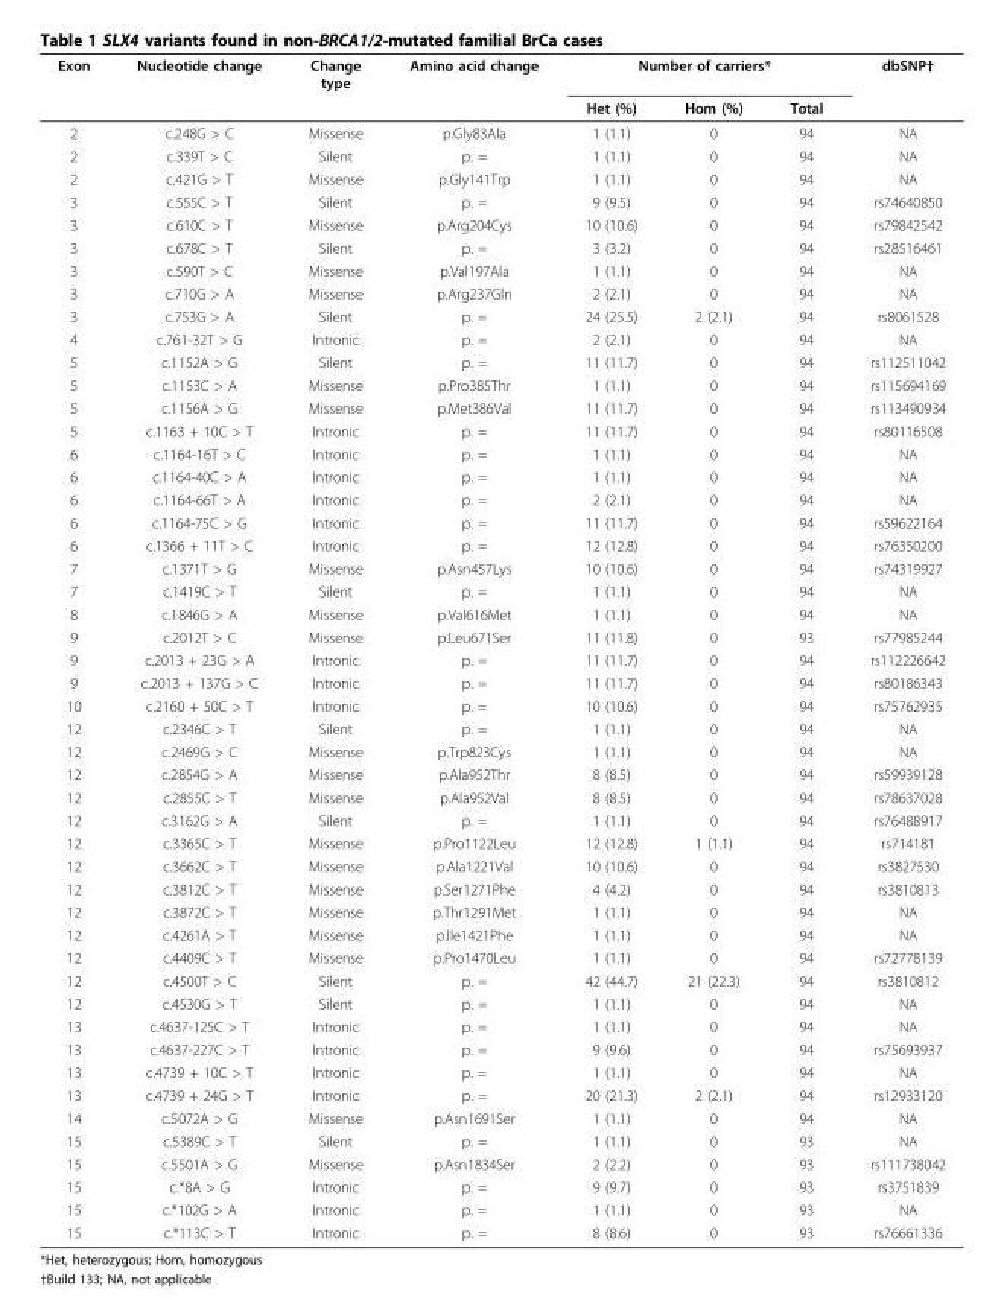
<table><thead><tr><td rowspan="2">Exon</td><td rowspan="2">Nucleotide change</td><td rowspan="2">Change type</td><td rowspan="2">Amino acid change</td><td colspan="3">Number of carriers*</td><td rowspan="2">dbSNP†</td></tr><tr><td>Het (%)</td><td>Hom (%)</td><td>Total</td></tr></thead><tbody><tr><td>2</td><td>c.248G &gt; C</td><td>Missense</td><td>p.Gly83Ala</td><td>1 (1.1)</td><td>0</td><td>94</td><td>NA</td></tr><tr><td>2</td><td>c.339T &gt; C</td><td>Silent</td><td>p. =</td><td>1 (1.1)</td><td>0</td><td>94</td><td>NA</td></tr><tr><td>2</td><td>c.421G &gt; T</td><td>Missense</td><td>p.Gly141Trp</td><td>1 (1.1)</td><td>0</td><td>94</td><td>NA</td></tr><tr><td>3</td><td>c.555C &gt; T</td><td>Silent</td><td>p. =</td><td>9 (9.5)</td><td>0</td><td>94</td><td>rs74640850</td></tr><tr><td>3</td><td>c.610C &gt; T</td><td>Missense</td><td>p.Arg204Cys</td><td>10 (10.6)</td><td>0</td><td>94</td><td>rs79842542</td></tr><tr><td>3</td><td>c.678C &gt; T</td><td>Silent</td><td>p. =</td><td>3 (3.2)</td><td>0</td><td>94</td><td>rs28516461</td></tr><tr><td>3</td><td>c.590T &gt; C</td><td>Missense</td><td>p.Val197Ala</td><td>1 (1.1)</td><td>0</td><td>94</td><td>NA</td></tr><tr><td>3</td><td>c.710G &gt; A</td><td>Missense</td><td>p.Arg237Gln</td><td>2 (2.1)</td><td>0</td><td>94</td><td>NA</td></tr><tr><td>3</td><td>c.753G &gt; A</td><td>Silent</td><td>p. =</td><td>24 (25.5)</td><td>2 (2.1)</td><td>94</td><td>rs8061528</td></tr><tr><td>4</td><td>c.761-32T &gt; G</td><td>Intronic</td><td>p. =</td><td>2 (2.1)</td><td>0</td><td>94</td><td>NA</td></tr><tr><td>5</td><td>c.1152A &gt; G</td><td>Silent</td><td>p. =</td><td>11 (11.7)</td><td>0</td><td>94</td><td>rs112511042</td></tr><tr><td>5</td><td>c.1153C &gt; A</td><td>Missense</td><td>p.Pro385Thr</td><td>1 (1.1)</td><td>0</td><td>94</td><td>rs115694169</td></tr><tr><td>5</td><td>c.1156A &gt; G</td><td>Missense</td><td>p.Met386Val</td><td>11 (11.7)</td><td>0</td><td>94</td><td>rs113490934</td></tr><tr><td>5</td><td>c.1163 + 10C &gt; T</td><td>Intronic</td><td>p. =</td><td>11 (11.7)</td><td>0</td><td>94</td><td>rs80116508</td></tr><tr><td>6</td><td>c.1164-16T &gt; C</td><td>Intronic</td><td>p. =</td><td>1 (1.1)</td><td>0</td><td>94</td><td>NA</td></tr><tr><td>6</td><td>c.1164-40C &gt; A</td><td>Intronic</td><td>p. =</td><td>1 (1.1)</td><td>0</td><td>94</td><td>NA</td></tr><tr><td>6</td><td>c.1164-66T &gt; A</td><td>Intronic</td><td>p. =</td><td>2 (2.1)</td><td>0</td><td>94</td><td>NA</td></tr><tr><td>6</td><td>c.1164-75C &gt; G</td><td>Intronic</td><td>p. =</td><td>11 (11.7)</td><td>0</td><td>94</td><td>rs59622164</td></tr><tr><td>6</td><td>c.1366 + 11T &gt; C</td><td>Intronic</td><td>p. =</td><td>12 (12.8)</td><td>0</td><td>94</td><td>rs76350200</td></tr><tr><td>7</td><td>c.1371T &gt; G</td><td>Missense</td><td>p.Asn457Lys</td><td>10 (10.6)</td><td>0</td><td>94</td><td>rs74319927</td></tr><tr><td>7</td><td>c.1419C &gt; T</td><td>Silent</td><td>p. =</td><td>1 (1.1)</td><td>0</td><td>94</td><td>NA</td></tr><tr><td>8</td><td>c.1846G &gt; A</td><td>Missense</td><td>p.Val616Met</td><td>1 (1.1)</td><td>0</td><td>94</td><td>NA</td></tr><tr><td>9</td><td>c.2012T &gt; C</td><td>Missense</td><td>p.Leu671Ser</td><td>11 (11.8)</td><td>0</td><td>93</td><td>rs77985244</td></tr><tr><td>9</td><td>c.2013 + 23G &gt; A</td><td>Intronic</td><td>p. =</td><td>11 (11.7)</td><td>0</td><td>94</td><td>rs112226642</td></tr><tr><td>9</td><td>c.2013 + 137G &gt; C</td><td>Intronic</td><td>p. =</td><td>11 (11.7)</td><td>0</td><td>94</td><td>rs80186343</td></tr><tr><td>10</td><td>c.2160 + 50C &gt; T</td><td>Intronic</td><td>p. =</td><td>10 (10.6)</td><td>0</td><td>94</td><td>rs75762935</td></tr><tr><td>12</td><td>c.2346C &gt; T</td><td>Silent</td><td>p. =</td><td>1 (1.1)</td><td>0</td><td>94</td><td>NA</td></tr><tr><td>12</td><td>c.2469G &gt; C</td><td>Missense</td><td>p.Trp823Cys</td><td>1 (1.1)</td><td>0</td><td>94</td><td>NA</td></tr><tr><td>12</td><td>c.2854G &gt; A</td><td>Missense</td><td>p.Ala952Thr</td><td>8 (8.5)</td><td>0</td><td>94</td><td>rs59939128</td></tr><tr><td>12</td><td>c.2855C &gt; T</td><td>Missense</td><td>p.Ala952Val</td><td>8 (8.5)</td><td>0</td><td>94</td><td>rs78637028</td></tr><tr><td>12</td><td>c.3162G &gt; A</td><td>Silent</td><td>p. =</td><td>1 (1.1)</td><td>0</td><td>94</td><td>rs76488917</td></tr><tr><td>12</td><td>c.3365C &gt; T</td><td>Missense</td><td>p.Pro1122Leu</td><td>12 (12.8)</td><td>1 (1.1)</td><td>94</td><td>rs714181</td></tr><tr><td>12</td><td>c.3662C &gt; T</td><td>Missense</td><td>p.Ala1221Val</td><td>10 (10.6)</td><td>0</td><td>94</td><td>rs3827530</td></tr><tr><td>12</td><td>c.3812C &gt; T</td><td>Missense</td><td>p.Ser1271Phe</td><td>4 (4.2)</td><td>0</td><td>94</td><td>rs3810813</td></tr><tr><td>12</td><td>c.3872C &gt; T</td><td>Missense</td><td>p.Thr1291Met</td><td>1 (1.1)</td><td>0</td><td>94</td><td>NA</td></tr><tr><td>12</td><td>c.4261A &gt; T</td><td>Missense</td><td>p.Ile1421Phe</td><td>1 (1.1)</td><td>0</td><td>94</td><td>NA</td></tr><tr><td>12</td><td>c.4409C &gt; T</td><td>Missense</td><td>p.Pro1470Leu</td><td>1 (1.1)</td><td>0</td><td>94</td><td>rs72778139</td></tr><tr><td>12</td><td>c.4500T &gt; C</td><td>Silent</td><td>p. =</td><td>42 (44.7)</td><td>21 (22.3)</td><td>94</td><td>rs3810812</td></tr><tr><td>12</td><td>c.4530G &gt; T</td><td>Silent</td><td>p. =</td><td>1 (1.1)</td><td>0</td><td>94</td><td>NA</td></tr><tr><td>13</td><td>c.4637-125C &gt; T</td><td>Intronic</td><td>p. =</td><td>1 (1.1)</td><td>0</td><td>94</td><td>NA</td></tr><tr><td>13</td><td>c.4637-227C &gt; T</td><td>Intronic</td><td>p. =</td><td>9 (9.6)</td><td>0</td><td>94</td><td>rs75693937</td></tr><tr><td>13</td><td>c.4739 + 10C &gt; T</td><td>Intronic</td><td>p. =</td><td>1 (1.1)</td><td>0</td><td>94</td><td>NA</td></tr><tr><td>13</td><td>c.4739 + 24G &gt; T</td><td>Intronic</td><td>p. =</td><td>20 (21.3)</td><td>2 (2.1)</td><td>94</td><td>rs12933120</td></tr><tr><td>14</td><td>c.5072A &gt; G</td><td>Missense</td><td>p.Asn1691Ser</td><td>1 (1.1)</td><td>0</td><td>94</td><td>NA</td></tr><tr><td>15</td><td>c.5389C &gt; T</td><td>Silent</td><td>p. =</td><td>1 (1.1)</td><td>0</td><td>93</td><td>NA</td></tr><tr><td>15</td><td>c.5501A &gt; G</td><td>Missense</td><td>p.Asn1834Ser</td><td>2 (2.2)</td><td>0</td><td>93</td><td>rs111738042</td></tr><tr><td>15</td><td>c.*8A &gt; G</td><td>Intronic</td><td>p. =</td><td>9 (9.7)</td><td>0</td><td>93</td><td>rs3751839</td></tr><tr><td>15</td><td>c.*102G &gt; A</td><td>Intronic</td><td>p. =</td><td>1 (1.1)</td><td>0</td><td>93</td><td>NA</td></tr><tr><td>15</td><td>c.*113C &gt; T</td><td>Intronic</td><td>p. =</td><td>8 (8.6)</td><td>0</td><td>93</td><td>rs76661336</td></tr></tbody></table>